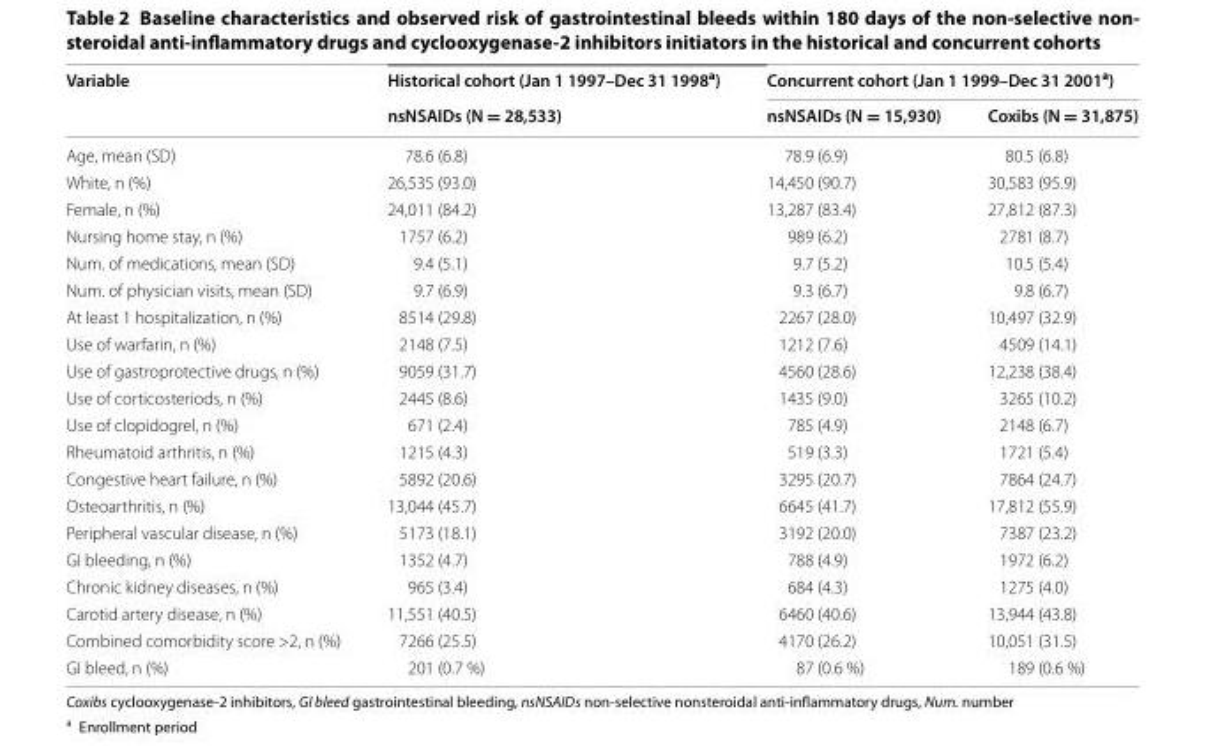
<table><thead><tr><td rowspan="2">Variable</td><td rowspan="2">Historical cohort (Jan 1 1997–Dec 31 1998<sup>a</sup>) nsNSAIDs (N = 28,533)</td><td colspan="2">Concurrent cohort (Jan 1 1999–Dec 31 2001<sup>a</sup>)</td></tr><tr><td>nsNSAIDs (N = 15,930)</td><td>Coxibs (N = 31,875)</td></tr></thead><tbody><tr><td>Age, mean (SD)</td><td>78.6 (6.8)</td><td>78.9 (6.9)</td><td>80.5 (6.8)</td></tr><tr><td>White, n (%)</td><td>26,535 (93.0)</td><td>14,450 (90.7)</td><td>30,583 (95.9)</td></tr><tr><td>Female, n (%)</td><td>24,011 (84.2)</td><td>13,287 (83.4)</td><td>27,812 (87.3)</td></tr><tr><td>Nursing home stay, n (%)</td><td>1757 (6.2)</td><td>989 (6.2)</td><td>2781 (8.7)</td></tr><tr><td>Num. of medications, mean (SD)</td><td>9.4 (5.1)</td><td>9.7 (5.2)</td><td>10.5 (5.4)</td></tr><tr><td>Num. of physician visits, mean (SD)</td><td>9.7 (6.9)</td><td>9.3 (6.7)</td><td>9.8 (6.7)</td></tr><tr><td>At least 1 hospitalization, n (%)</td><td>8514 (29.8)</td><td>2267 (28.0)</td><td>10,497 (32.9)</td></tr><tr><td>Use of warfarin, n (%)</td><td>2148 (7.5)</td><td>1212 (7.6)</td><td>4509 (14.1)</td></tr><tr><td>Use of gastroprotective drugs, n (%)</td><td>9059 (31.7)</td><td>4560 (28.6)</td><td>12,238 (38.4)</td></tr><tr><td>Use of corticosteriods, n (%)</td><td>2445 (8.6)</td><td>1435 (9.0)</td><td>3265 (10.2)</td></tr><tr><td>Use of clopidogrel, n (%)</td><td>671 (2.4)</td><td>785 (4.9)</td><td>2148 (6.7)</td></tr><tr><td>Rheumatoid arthritis, n (%)</td><td>1215 (4.3)</td><td>519 (3.3)</td><td>1721 (5.4)</td></tr><tr><td>Congestive heart failure, n (%)</td><td>5892 (20.6)</td><td>3295 (20.7)</td><td>7864 (24.7)</td></tr><tr><td>Osteoarthritis, n (%)</td><td>13,044 (45.7)</td><td>6645 (41.7)</td><td>17,812 (55.9)</td></tr><tr><td>Peripheral vascular disease, n (%)</td><td>5173 (18.1)</td><td>3192 (20.0)</td><td>7387 (23.2)</td></tr><tr><td>GI bleeding, n (%)</td><td>1352 (4.7)</td><td>788 (4.9)</td><td>1972 (6.2)</td></tr><tr><td>Chronic kidney diseases, n (%)</td><td>965 (3.4)</td><td>684 (4.3)</td><td>1275 (4.0)</td></tr><tr><td>Carotid artery disease, n (%)</td><td>11,551 (40.5)</td><td>6460 (40.6)</td><td>13,944 (43.8)</td></tr><tr><td>Combined comorbidity score &gt;2, n (%)</td><td>7266 (25.5)</td><td>4170 (26.2)</td><td>10,051 (31.5)</td></tr><tr><td>GI bleed, n (%)</td><td>201 (0.7 %)</td><td>87 (0.6 %)</td><td>189 (0.6 %)</td></tr></tbody></table>